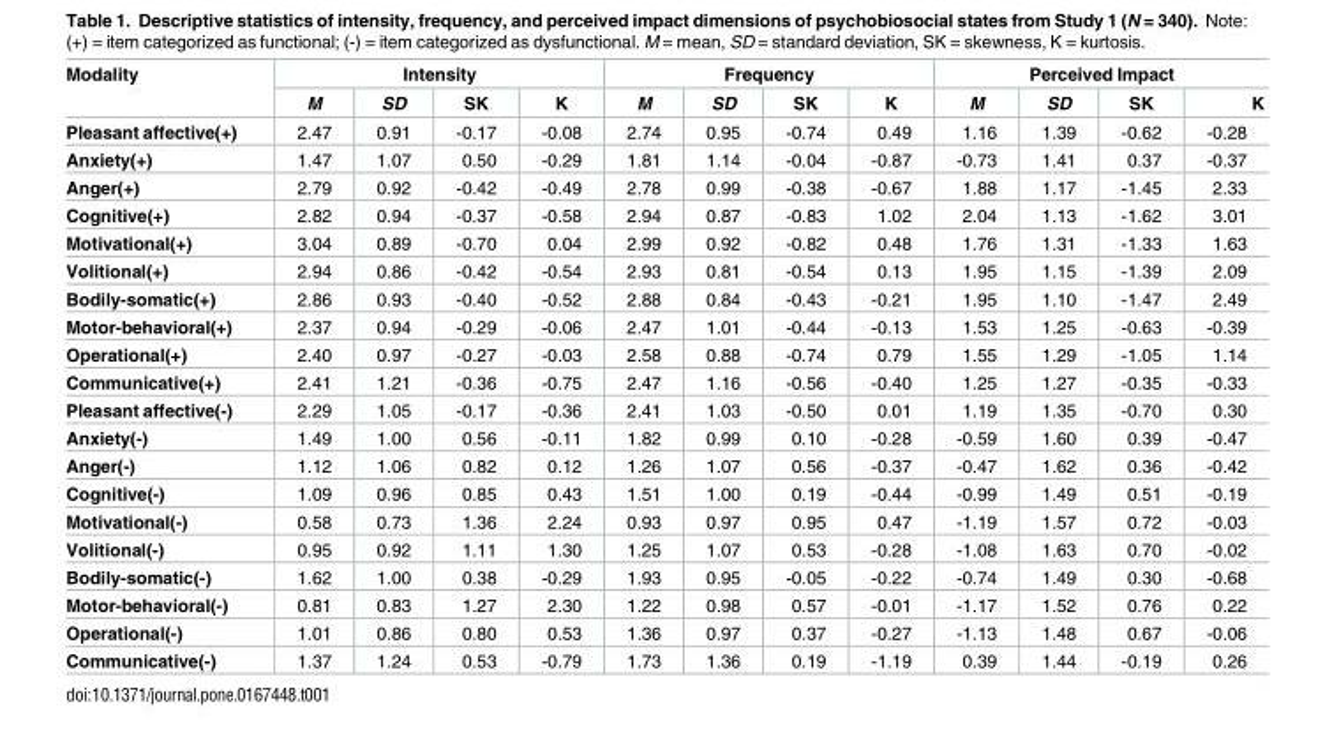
<table><thead><tr><td rowspan="2">Modality</td><td colspan="4">Intensity</td><td colspan="4">Frequency</td><td colspan="4">Perceived Impact</td></tr><tr><td>M</td><td>SD</td><td>SK</td><td>K</td><td>M</td><td>SD</td><td>SK</td><td>K</td><td>M</td><td>SD</td><td>SK</td><td>K</td></tr></thead><tbody><tr><td>Pleasant affective(+)</td><td>2.47</td><td>0.91</td><td>-0.17</td><td>-0.08</td><td>2.74</td><td>0.95</td><td>-0.74</td><td>0.49</td><td>1.16</td><td>1.39</td><td>-0.62</td><td>-0.28</td></tr><tr><td>Anxiety(+)</td><td>1.47</td><td>1.07</td><td>0.50</td><td>-0.29</td><td>1.81</td><td>1.14</td><td>-0.04</td><td>-0.87</td><td>-0.73</td><td>1.41</td><td>0.37</td><td>-0.37</td></tr><tr><td>Anger(+)</td><td>2.79</td><td>0.92</td><td>-0.42</td><td>-0.49</td><td>2.78</td><td>0.99</td><td>-0.38</td><td>-0.67</td><td>1.88</td><td>1.17</td><td>-1.45</td><td>2.33</td></tr><tr><td>Cognitive(+)</td><td>2.82</td><td>0.94</td><td>-0.37</td><td>-0.58</td><td>2.94</td><td>0.87</td><td>-0.83</td><td>1.02</td><td>2.04</td><td>1.13</td><td>-1.62</td><td>3.01</td></tr><tr><td>Motivational(+)</td><td>3.04</td><td>0.89</td><td>-0.70</td><td>0.04</td><td>2.99</td><td>0.92</td><td>-0.82</td><td>0.48</td><td>1.76</td><td>1.31</td><td>-1.33</td><td>1.63</td></tr><tr><td>Volitional(+)</td><td>2.94</td><td>0.86</td><td>-0.42</td><td>-0.54</td><td>2.93</td><td>0.81</td><td>-0.54</td><td>0.13</td><td>1.95</td><td>1.15</td><td>-1.39</td><td>2.09</td></tr><tr><td>Bodily-somatic(+)</td><td>2.86</td><td>0.93</td><td>-0.40</td><td>-0.52</td><td>2.88</td><td>0.84</td><td>-0.43</td><td>-0.21</td><td>1.95</td><td>1.10</td><td>-1.47</td><td>2.49</td></tr><tr><td>Motor-behavioral(+)</td><td>2.37</td><td>0.94</td><td>-0.29</td><td>-0.06</td><td>2.47</td><td>1.01</td><td>-0.44</td><td>-0.13</td><td>1.53</td><td>1.25</td><td>-0.63</td><td>-0.39</td></tr><tr><td>Operational(+)</td><td>2.40</td><td>0.97</td><td>-0.27</td><td>-0.03</td><td>2.58</td><td>0.88</td><td>-0.74</td><td>0.79</td><td>1.55</td><td>1.29</td><td>-1.05</td><td>1.14</td></tr><tr><td>Communicative(+)</td><td>2.41</td><td>1.21</td><td>-0.36</td><td>-0.75</td><td>2.47</td><td>1.16</td><td>-0.56</td><td>-0.40</td><td>1.25</td><td>1.27</td><td>-0.35</td><td>-0.33</td></tr><tr><td>Pleasant affective(-)</td><td>2.29</td><td>1.05</td><td>-0.17</td><td>-0.36</td><td>2.41</td><td>1.03</td><td>-0.50</td><td>0.01</td><td>1.19</td><td>1.35</td><td>-0.70</td><td>0.30</td></tr><tr><td>Anxiety(-)</td><td>1.49</td><td>1.00</td><td>0.56</td><td>-0.11</td><td>1.82</td><td>0.99</td><td>0.10</td><td>-0.28</td><td>-0.59</td><td>1.60</td><td>0.39</td><td>-0.47</td></tr><tr><td>Anger(-)</td><td>1.12</td><td>1.06</td><td>0.82</td><td>0.12</td><td>1.26</td><td>1.07</td><td>0.56</td><td>-0.37</td><td>-0.47</td><td>1.62</td><td>0.36</td><td>-0.42</td></tr><tr><td>Cognitive(-)</td><td>1.09</td><td>0.96</td><td>0.85</td><td>0.43</td><td>1.51</td><td>1.00</td><td>0.19</td><td>-0.44</td><td>-0.99</td><td>1.49</td><td>0.51</td><td>-0.19</td></tr><tr><td>Motivational(-)</td><td>0.58</td><td>0.73</td><td>1.36</td><td>2.24</td><td>0.93</td><td>0.97</td><td>0.95</td><td>0.47</td><td>-1.19</td><td>1.57</td><td>0.72</td><td>-0.03</td></tr><tr><td>Volitional(-)</td><td>0.95</td><td>0.92</td><td>1.11</td><td>1.30</td><td>1.25</td><td>1.07</td><td>0.53</td><td>-0.28</td><td>-1.08</td><td>1.63</td><td>0.70</td><td>-0.02</td></tr><tr><td>Bodily-somatic(-)</td><td>1.62</td><td>1.00</td><td>0.38</td><td>-0.29</td><td>1.93</td><td>0.95</td><td>-0.05</td><td>-0.22</td><td>-0.74</td><td>1.49</td><td>0.30</td><td>-0.68</td></tr><tr><td>Motor-behavioral(-)</td><td>0.81</td><td>0.83</td><td>1.27</td><td>2.30</td><td>1.22</td><td>0.98</td><td>0.57</td><td>-0.01</td><td>-1.17</td><td>1.52</td><td>0.76</td><td>0.22</td></tr><tr><td>Operational(-)</td><td>1.01</td><td>0.86</td><td>0.80</td><td>0.53</td><td>1.36</td><td>0.97</td><td>0.37</td><td>-0.27</td><td>-1.13</td><td>1.48</td><td>0.67</td><td>-0.06</td></tr><tr><td>Communicative(-)</td><td>1.37</td><td>1.24</td><td>0.53</td><td>-0.79</td><td>1.73</td><td>1.36</td><td>0.19</td><td>-1.19</td><td>0.39</td><td>1.44</td><td>-0.19</td><td>0.26</td></tr></tbody></table>